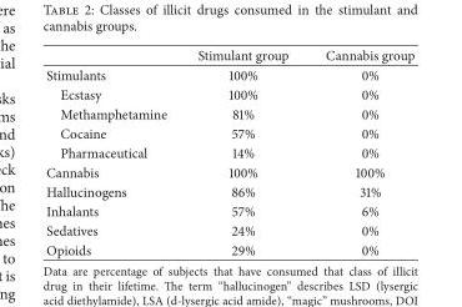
<table><thead><tr><td></td><td>Stimulant group</td><td>Cannabis group</td></tr></thead><tbody><tr><td>Stimulants</td><td>100%</td><td>0%</td></tr><tr><td>Ecstasy</td><td>100%</td><td>0%</td></tr><tr><td>Methamphetamine</td><td>81%</td><td>0%</td></tr><tr><td>Cocaine</td><td>57%</td><td>0%</td></tr><tr><td>Pharmaceutical</td><td>14%</td><td>0%</td></tr><tr><td>Cannabis</td><td>100%</td><td>100%</td></tr><tr><td>Hallucinogens</td><td>86%</td><td>31%</td></tr><tr><td>Inhalants</td><td>57%</td><td>6%</td></tr><tr><td>Sedatives</td><td>24%</td><td>0%</td></tr><tr><td>Opioids</td><td>29%</td><td>0%</td></tr></tbody></table>